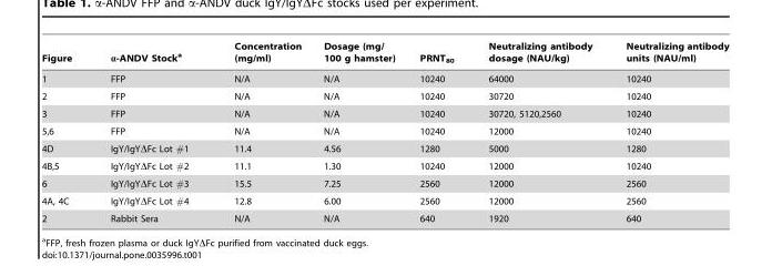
<table><thead><tr><td>Figure</td><td>α-ANDV Stock<sup>a</sup></td><td>Concentration (mg/ml)</td><td>Dosage (mg/ 100 g hamster)</td><td>PRNT<sub>80</sub></td><td>Neutralizing antibody dosage (NAU/kg)</td><td>Neutralizing antibody units (NAU/ml)</td></tr></thead><tbody><tr><td>1</td><td>FFP</td><td>N/A</td><td>N/A</td><td>10240</td><td>64000</td><td>10240</td></tr><tr><td>2</td><td>FFP</td><td>N/A</td><td>N/A</td><td>10240</td><td>30720</td><td>10240</td></tr><tr><td>3</td><td>FFP</td><td>N/A</td><td>N/A</td><td>10240</td><td>30720, 5120,2560</td><td>10240</td></tr><tr><td>5,6</td><td>FFP</td><td>N/A</td><td>N/A</td><td>10240</td><td>12000</td><td>10240</td></tr><tr><td>4D</td><td>IgY/IgYΔFc Lot #1</td><td>11.4</td><td>4.56</td><td>1280</td><td>5000</td><td>1280</td></tr><tr><td>4B,5</td><td>IgY/IgYΔFc Lot #2</td><td>11.1</td><td>1.30</td><td>10240</td><td>12000</td><td>10240</td></tr><tr><td>6</td><td>IgY/IgYΔFc Lot #3</td><td>15.5</td><td>7.25</td><td>2560</td><td>12000</td><td>2560</td></tr><tr><td>4A, 4C</td><td>IgY/IgYΔFc Lot #4</td><td>12.8</td><td>6.00</td><td>2560</td><td>12000</td><td>2560</td></tr><tr><td>2</td><td>Rabbit Sera</td><td>N/A</td><td>N/A</td><td>640</td><td>1920</td><td>640</td></tr></tbody></table>